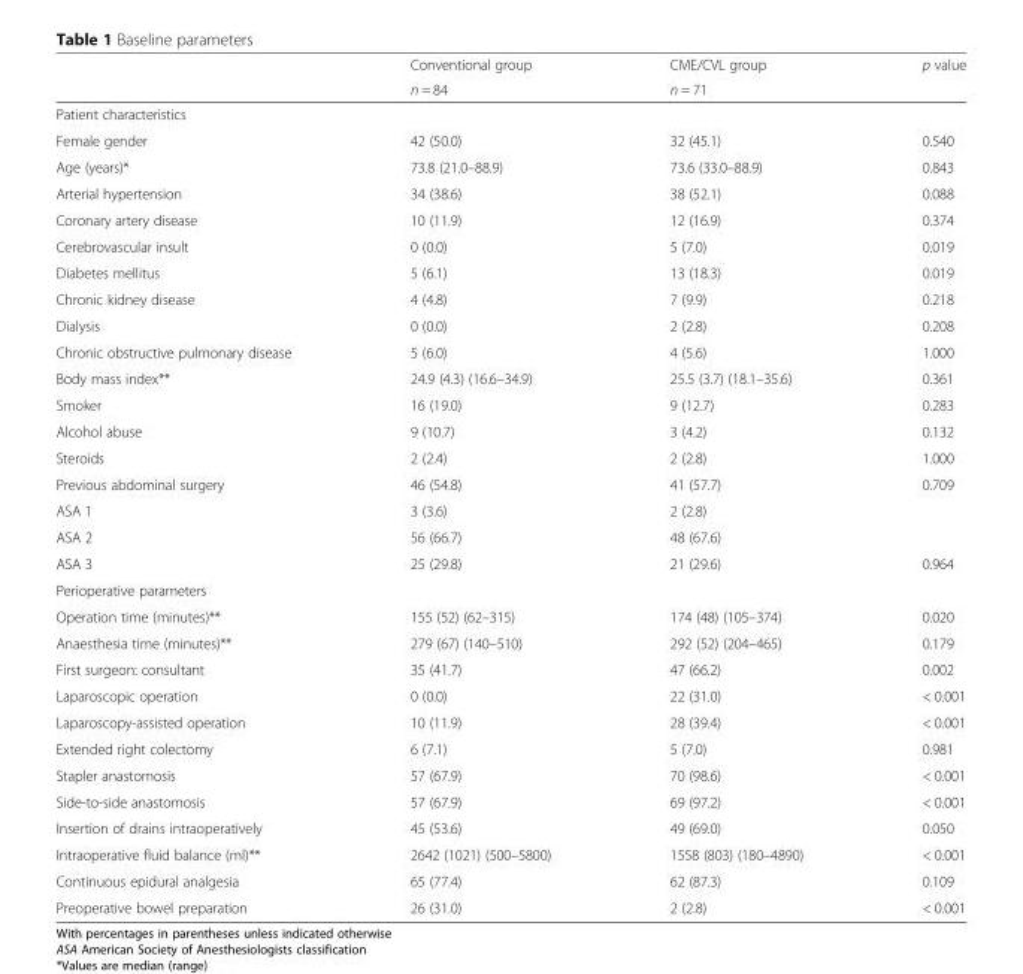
<table><thead><tr><td rowspan="2"></td><td rowspan="2">Conventional group n = 84</td><td rowspan="2">CME/CVL group n = 71</td><td rowspan="2">p value</td></tr><tr></tr></thead><tbody><tr><td colspan="4">Patient characteristics</td></tr><tr><td>Female gender</td><td>42 (50.0)</td><td>32 (45.1)</td><td>0.540</td></tr><tr><td>Age (years)*</td><td>73.8 (21.0–88.9)</td><td>73.6 (33.0–88.9)</td><td>0.843</td></tr><tr><td>Arterial hypertension</td><td>34 (38.6)</td><td>38 (52.1)</td><td>0.088</td></tr><tr><td>Coronary artery disease</td><td>10 (11.9)</td><td>12 (16.9)</td><td>0.374</td></tr><tr><td>Cerebrovascular insult</td><td>0 (0.0)</td><td>5 (7.0)</td><td>0.019</td></tr><tr><td>Diabetes mellitus</td><td>5 (6.1)</td><td>13 (18.3)</td><td>0.019</td></tr><tr><td>Chronic kidney disease</td><td>4 (4.8)</td><td>7 (9.9)</td><td>0.218</td></tr><tr><td>Dialysis</td><td>0 (0.0)</td><td>2 (2.8)</td><td>0.208</td></tr><tr><td>Chronic obstructive pulmonary disease</td><td>5 (6.0)</td><td>4 (5.6)</td><td>1.000</td></tr><tr><td>Body mass index**</td><td>24.9 (4.3) (16.6–34.9)</td><td>25.5 (3.7) (18.1–35.6)</td><td>0.361</td></tr><tr><td>Smoker</td><td>16 (19.0)</td><td>9 (12.7)</td><td>0.283</td></tr><tr><td>Alcohol abuse</td><td>9 (10.7)</td><td>3 (4.2)</td><td>0.132</td></tr><tr><td>Steroids</td><td>2 (2.4)</td><td>2 (2.8)</td><td>1.000</td></tr><tr><td>Previous abdominal surgery</td><td>46 (54.8)</td><td>41 (57.7)</td><td>0.709</td></tr><tr><td>ASA 1</td><td>3 (3.6)</td><td>2 (2.8)</td><td></td></tr><tr><td>ASA 2</td><td>56 (66.7)</td><td>48 (67.6)</td><td></td></tr><tr><td>ASA 3</td><td>25 (29.8)</td><td>21 (29.6)</td><td>0.964</td></tr><tr><td colspan="4">Perioperative parameters</td></tr><tr><td>Operation time (minutes)**</td><td>155 (52) (62–315)</td><td>174 (48) (105–374)</td><td>0.020</td></tr><tr><td>Anaesthesia time (minutes)**</td><td>279 (67) (140–510)</td><td>292 (52) (204–465)</td><td>0.179</td></tr><tr><td>First surgeon: consultant</td><td>35 (41.7)</td><td>47 (66.2)</td><td>0.002</td></tr><tr><td>Laparoscopic operation</td><td>0 (0.0)</td><td>22 (31.0)</td><td>&lt; 0.001</td></tr><tr><td>Laparoscopy-assisted operation</td><td>10 (11.9)</td><td>28 (39.4)</td><td>&lt; 0.001</td></tr><tr><td>Extended right colectomy</td><td>6 (7.1)</td><td>5 (7.0)</td><td>0.981</td></tr><tr><td>Stapler anastomosis</td><td>57 (67.9)</td><td>70 (98.6)</td><td>&lt; 0.001</td></tr><tr><td>Side-to-side anastomosis</td><td>57 (67.9)</td><td>69 (97.2)</td><td>&lt; 0.001</td></tr><tr><td>Insertion of drains intraoperatively</td><td>45 (53.6)</td><td>49 (69.0)</td><td>0.050</td></tr><tr><td>Intraoperative fluid balance (ml)**</td><td>2642 (1021) (500–5800)</td><td>1558 (803) (180–4890)</td><td>&lt; 0.001</td></tr><tr><td>Continuous epidural analgesia</td><td>65 (77.4)</td><td>62 (87.3)</td><td>0.109</td></tr><tr><td>Preoperative bowel preparation</td><td>26 (31.0)</td><td>2 (2.8)</td><td>&lt; 0.001</td></tr></tbody></table>